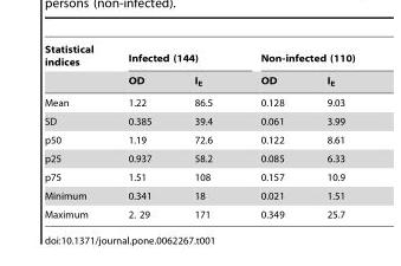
<table><thead><tr><td rowspan="2">Statistical indices</td><td colspan="2">Infected (144)</td><td colspan="2">Non-infected (110)</td></tr><tr><td>OD</td><td>I<sub>E</sub></td><td>OD</td><td>I<sub>E</sub></td></tr></thead><tbody><tr><td>Mean</td><td>1.22</td><td>86.5</td><td>0.128</td><td>9.03</td></tr><tr><td>SD</td><td>0.385</td><td>39.4</td><td>0.061</td><td>3.99</td></tr><tr><td>p50</td><td>1.19</td><td>72.6</td><td>0.122</td><td>8.61</td></tr><tr><td>p25</td><td>0.937</td><td>58.2</td><td>0.085</td><td>6.33</td></tr><tr><td>p75</td><td>1.51</td><td>108</td><td>0.157</td><td>10.9</td></tr><tr><td>Minimum</td><td>0.341</td><td>18</td><td>0.021</td><td>1.51</td></tr><tr><td>Maximum</td><td>2. 29</td><td>171</td><td>0.349</td><td>25.7</td></tr></tbody></table>